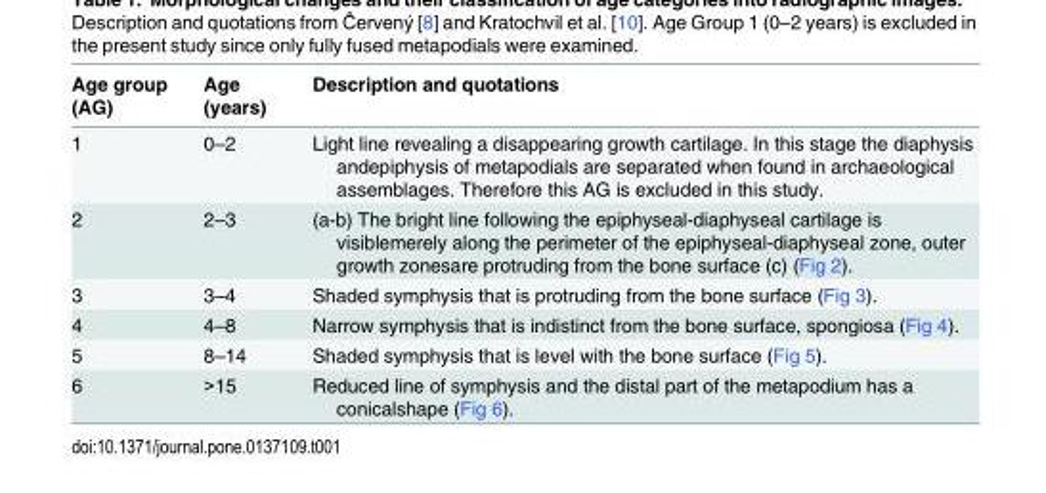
<table><thead><tr><td>Age group (AG)</td><td>Age (years)</td><td>Description and quotations</td></tr></thead><tbody><tr><td>1</td><td>0–2</td><td>Light line revealing a disappearing growth cartilage. In this stage the diaphysis andepiphysis of metapodials are separated when found in archaeological assemblages. Therefore this AG is excluded in this study.</td></tr><tr><td>2</td><td>2–3</td><td>(a-b) The bright line following the epiphyseal-diaphyseal cartilage is visiblemerely along the perimeter of the epiphyseal-diaphyseal zone, outer growth zonesare protruding from the bone surface (c) (Fig 2).</td></tr><tr><td>3</td><td>3–4</td><td>Shaded symphysis that is protruding from the bone surface (Fig 3).</td></tr><tr><td>4</td><td>4–8</td><td>Narrow symphysis that is indistinct from the bone surface, spongiosa (Fig 4).</td></tr><tr><td>5</td><td>8–14</td><td>Shaded symphysis that is level with the bone surface (Fig 5).</td></tr><tr><td>6</td><td>&gt;15</td><td>Reduced line of symphysis and the distal part of the metapodium has a conicalshape (Fig 6).</td></tr></tbody></table>